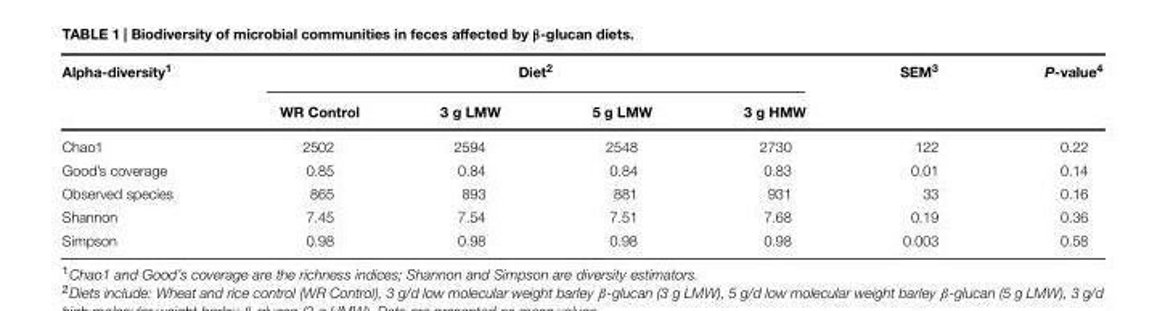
<table><thead><tr><td rowspan="2">Alpha-diversity<sup>1</sup></td><td colspan="4">Diet<sup>2</sup></td><td rowspan="2">SEM<sup>3</sup></td><td rowspan="2">P-value<sup>4</sup></td></tr><tr><td>WR Control</td><td>3 g LMW</td><td>5 g LMW</td><td>3 g HMW</td></tr></thead><tbody><tr><td>Chao1</td><td>2502</td><td>2594</td><td>2548</td><td>2730</td><td>122</td><td>0.22</td></tr><tr><td>Good’s coverage</td><td>0.85</td><td>0.84</td><td>0.84</td><td>0.83</td><td>0.01</td><td>0.14</td></tr><tr><td>Observed species</td><td>865</td><td>893</td><td>881</td><td>931</td><td>33</td><td>0.16</td></tr><tr><td>Shannon</td><td>7.45</td><td>7.54</td><td>7.51</td><td>7.68</td><td>0.19</td><td>0.36</td></tr><tr><td>Simpson</td><td>0.98</td><td>0.98</td><td>0.98</td><td>0.98</td><td>0.003</td><td>0.58</td></tr></tbody></table>